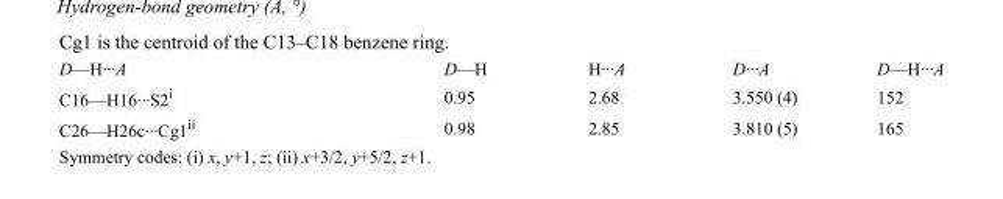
<table><tbody><tr><td>D—H···A</td><td>D—H</td><td>H···A</td><td>D···A</td><td>D—H···A</td></tr><tr><td>C16—H16···S2<sup>i</sup></td><td>0.95</td><td>2.68</td><td>3.550 (4)</td><td>152</td></tr><tr><td>C26—H26c···Cg1<sup>ii</sup></td><td>0.98</td><td>2.85</td><td>3.810 (5)</td><td>165</td></tr></tbody></table>